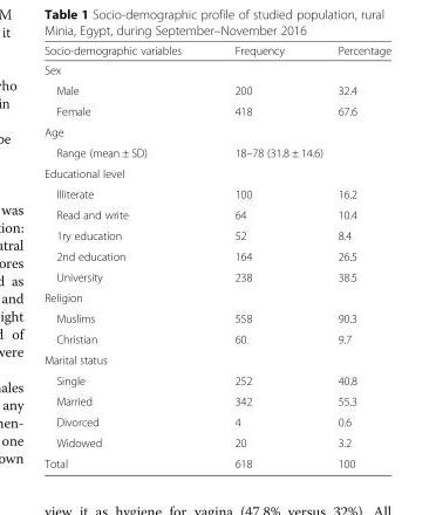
<table><thead><tr><td>Socio-demographic variables</td><td>Frequency</td><td>Percentage</td></tr></thead><tbody><tr><td colspan="3">Sex</td></tr><tr><td>Male</td><td>200</td><td>32.4</td></tr><tr><td>Female</td><td>418</td><td>67.6</td></tr><tr><td colspan="3">Age</td></tr><tr><td>Range (mean ± SD)</td><td colspan="2">18–78 (31.8 ± 14.6)</td></tr><tr><td colspan="3">Educational level</td></tr><tr><td>Illiterate</td><td>100</td><td>16.2</td></tr><tr><td>Read and write</td><td>64</td><td>10.4</td></tr><tr><td>1ry education</td><td>52</td><td>8.4</td></tr><tr><td>2nd education</td><td>164</td><td>26.5</td></tr><tr><td>University</td><td>238</td><td>38.5</td></tr><tr><td colspan="3">Religion</td></tr><tr><td>Muslims</td><td>558</td><td>90.3</td></tr><tr><td>Christian</td><td>60</td><td>9.7</td></tr><tr><td colspan="3">Marital status</td></tr><tr><td>Single</td><td>252</td><td>40.8</td></tr><tr><td>Married</td><td>342</td><td>55.3</td></tr><tr><td>Divorced</td><td>4</td><td>0.6</td></tr><tr><td>Widowed</td><td>20</td><td>3.2</td></tr><tr><td>Total</td><td>618</td><td>100</td></tr></tbody></table>